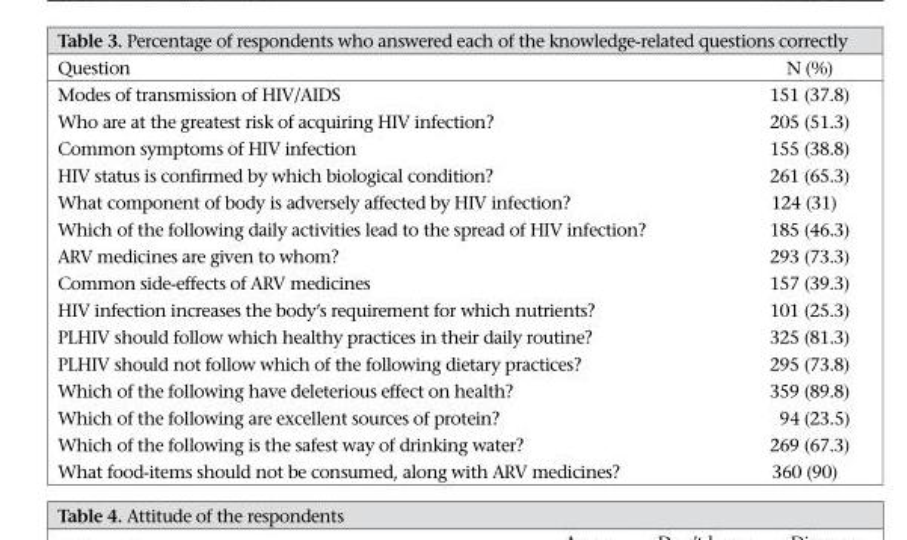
<table><thead><tr><td>Question</td><td>N (%)</td></tr></thead><tbody><tr><td>Modes of transmission of HIV/AIDS</td><td>151 (37.8)</td></tr><tr><td>Who are at the greatest risk of acquiring HIV infection?</td><td>205 (51.3)</td></tr><tr><td>Common symptoms of HIV infection</td><td>155 (38.8)</td></tr><tr><td>HIV status is confirmed by which biological condition?</td><td>261 (65.3)</td></tr><tr><td>What component of body is adversely affected by HIV infection?</td><td>124 (31)</td></tr><tr><td>Which of the following daily activities lead to the spread of HIV infection?</td><td>185 (46.3)</td></tr><tr><td>ARV medicines are given to whom?</td><td>293 (73.3)</td></tr><tr><td>Common side-effects of ARV medicines</td><td>157 (39.3)</td></tr><tr><td>HIV infection increases the body’s requirement for which nutrients?</td><td>101 (25.3)</td></tr><tr><td>PLHIV should follow which healthy practices in their daily routine?</td><td>325 (81.3)</td></tr><tr><td>PLHIV should not follow which of the following dietary practices?</td><td>295 (73.8)</td></tr><tr><td>Which of the following have deleterious effect on health?</td><td>359 (89.8)</td></tr><tr><td>Which of the following are excellent sources of protein?</td><td>94 (23.5)</td></tr><tr><td>Which of the following is the safest way of drinking water?</td><td>269 (67.3)</td></tr><tr><td>What food-items should not be consumed, along with ARV medicines?</td><td>360 (90)</td></tr></tbody></table>